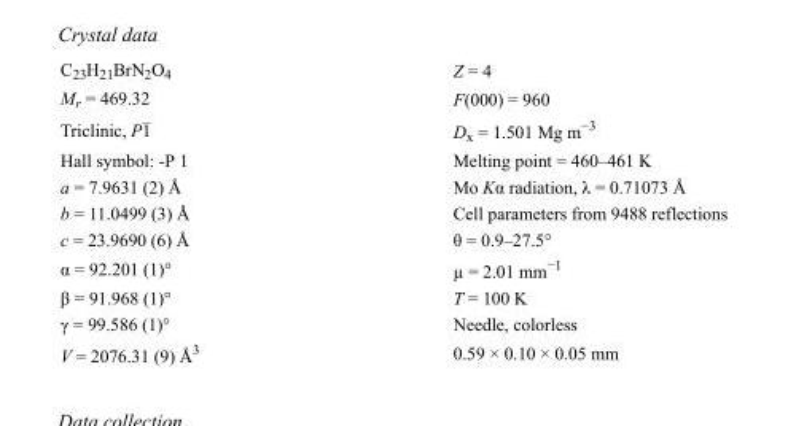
<table><tbody><tr><td>C<sub>23</sub>H<sub>21</sub>BrN<sub>2</sub>O<sub>4</sub></td><td>Z = 4</td></tr><tr><td>M<sub>r</sub> = 469.32</td><td>F(000) = 960</td></tr><tr><td>Triclinic, P1</td><td>D<sub>x</sub> = 1.501 Mg m<sup>−3</sup></td></tr><tr><td>Hall symbol: -P 1</td><td>Melting point = 460–461 K</td></tr><tr><td>a = 7.9631 (2) Å</td><td>Mo Kα radiation, λ = 0.71073 Å</td></tr><tr><td>b = 11.0499 (3) Å</td><td>Cell parameters from 9488 reflections</td></tr><tr><td>c = 23.9690 (6) Å</td><td>θ = 0.9–27.5°</td></tr><tr><td>α = 92.201 (1)°</td><td>µ = 2.01 mm<sup>−1</sup></td></tr><tr><td>β = 91.968 (1)°</td><td>T = 100 K</td></tr><tr><td>γ = 99.586 (1)°</td><td>Needle, colorless</td></tr><tr><td>V = 2076.31 (9) Å<sup>3</sup></td><td>0.59 × 0.10 × 0.05 mm</td></tr></tbody></table>